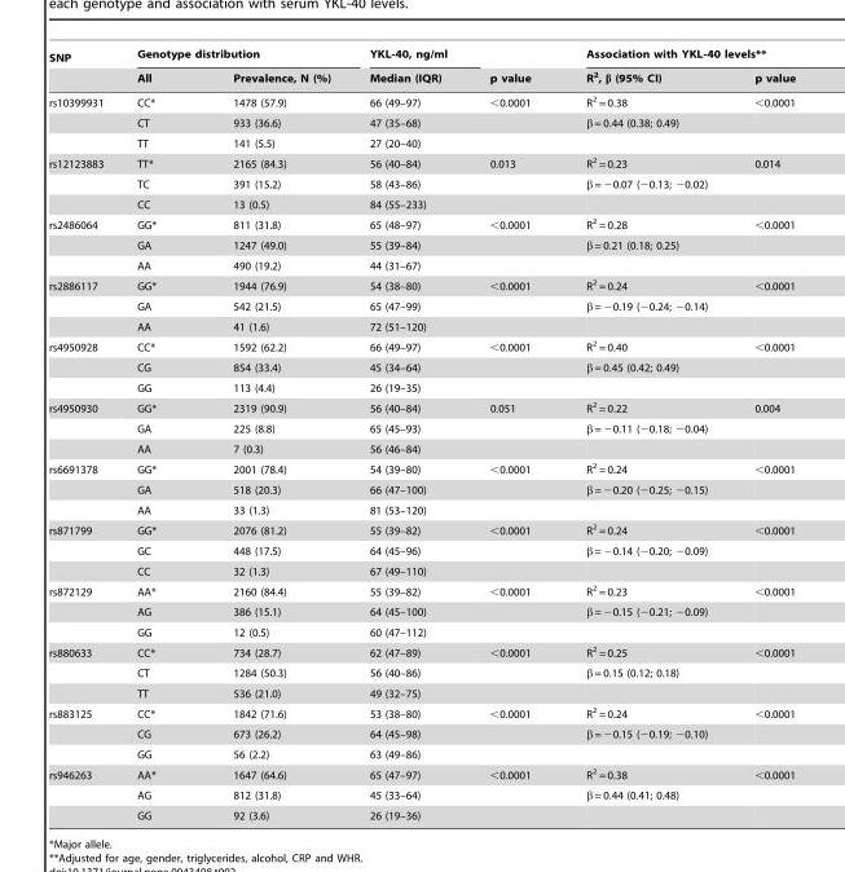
<table><thead><tr><td rowspan="2">SNP</td><td colspan="2">Genotype distribution</td><td rowspan="2">YKL-40, ng/ml Median (IQR)</td><td rowspan="2">p value</td><td colspan="2">Association with YKL-40 levels**</td></tr><tr><td>All</td><td>Prevalence, N (%)</td><td>R<sup>2</sup>, β (95% CI)</td><td>p value</td></tr></thead><tbody><tr><td rowspan="3">rs10399931</td><td>CC*</td><td>1478 (57.9)</td><td>66 (49–97)</td><td>&lt;0.0001</td><td>R<sup>2</sup> = 0.38</td><td>&lt;0.0001</td></tr><tr><td>CT</td><td>933 (36.6)</td><td>47 (35–68)</td><td></td><td>β = 0.44 (0.38; 0.49)</td><td></td></tr><tr><td>TT</td><td>141 (5.5)</td><td>27 (20–40)</td><td></td><td></td><td></td></tr><tr><td rowspan="3">rs12123883</td><td>TT*</td><td>2165 (84.3)</td><td>56 (40–84)</td><td>0.013</td><td>R<sup>2</sup> = 0.23</td><td>0.014</td></tr><tr><td>TC</td><td>391 (15.2)</td><td>58 (43–86)</td><td></td><td>β = −0.07 (−0.13; −0.02)</td><td></td></tr><tr><td>CC</td><td>13 (0.5)</td><td>84 (55–233)</td><td></td><td></td><td></td></tr><tr><td rowspan="3">rs2486064</td><td>GG*</td><td>811 (31.8)</td><td>65 (48–97)</td><td>&lt;0.0001</td><td>R<sup>2</sup> = 0.28</td><td>&lt;0.0001</td></tr><tr><td>GA</td><td>1247 (49.0)</td><td>55 (39–84)</td><td></td><td>β = 0.21 (0.18; 0.25)</td><td></td></tr><tr><td>AA</td><td>490 (19.2)</td><td>44 (31–67)</td><td></td><td></td><td></td></tr><tr><td rowspan="3">rs2886117</td><td>GG*</td><td>1944 (76.9)</td><td>54 (38–80)</td><td>&lt;0.0001</td><td>R<sup>2</sup> = 0.24</td><td>&lt;0.0001</td></tr><tr><td>GA</td><td>542 (21.5)</td><td>65 (47–99)</td><td></td><td>β = −0.19 (−0.24; −0.14)</td><td></td></tr><tr><td>AA</td><td>41 (1.6)</td><td>72 (51–120)</td><td></td><td></td><td></td></tr><tr><td rowspan="3">rs4950928</td><td>CC*</td><td>1592 (62.2)</td><td>66 (49–97)</td><td>&lt;0.0001</td><td>R<sup>2</sup> = 0.40</td><td>&lt;0.0001</td></tr><tr><td>CG</td><td>854 (33.4)</td><td>45 (34–64)</td><td></td><td>β = 0.45 (0.42; 0.49)</td><td></td></tr><tr><td>GG</td><td>113 (4.4)</td><td>26 (19–35)</td><td></td><td></td><td></td></tr><tr><td rowspan="3">rs4950930</td><td>GG*</td><td>2319 (90.9)</td><td>56 (40–84)</td><td>0.051</td><td>R<sup>2</sup> = 0.22</td><td>0.004</td></tr><tr><td>GA</td><td>225 (8.8)</td><td>65 (45–93)</td><td></td><td>β = −0.11 (−0.18; −0.04)</td><td></td></tr><tr><td>AA</td><td>7 (0.3)</td><td>56 (46–84)</td><td></td><td></td><td></td></tr><tr><td rowspan="3">rs6691378</td><td>GG*</td><td>2001 (78.4)</td><td>54 (39–80)</td><td>&lt;0.0001</td><td>R<sup>2</sup> = 0.24</td><td>&lt;0.0001</td></tr><tr><td>GA</td><td>518 (20.3)</td><td>66 (47–100)</td><td></td><td>β = −0.20 (−0.25; −0.15)</td><td></td></tr><tr><td>AA</td><td>33 (1.3)</td><td>81 (53–120)</td><td></td><td></td><td></td></tr><tr><td rowspan="3">rs871799</td><td>GG*</td><td>2076 (81.2)</td><td>55 (39–82)</td><td>&lt;0.0001</td><td>R<sup>2</sup> = 0.24</td><td>&lt;0.0001</td></tr><tr><td>GC</td><td>448 (17.5)</td><td>64 (45–96)</td><td></td><td>β = −0.14 (−0.20; −0.09)</td><td></td></tr><tr><td>CC</td><td>32 (1.3)</td><td>67 (49–110)</td><td></td><td></td><td></td></tr><tr><td rowspan="3">rs872129</td><td>AA*</td><td>2160 (84.4)</td><td>55 (39–82)</td><td>&lt;0.0001</td><td>R<sup>2</sup> = 0.23</td><td>&lt;0.0001</td></tr><tr><td>AG</td><td>386 (15.1)</td><td>64 (45–100)</td><td></td><td>β = −0.15 (−0.21; −0.09)</td><td></td></tr><tr><td>GG</td><td>12 (0.5)</td><td>60 (47–112)</td><td></td><td></td><td></td></tr><tr><td rowspan="3">rs880633</td><td>CC*</td><td>734 (28.7)</td><td>62 (47–89)</td><td>&lt;0.0001</td><td>R<sup>2</sup> = 0.25</td><td>&lt;0.0001</td></tr><tr><td>CT</td><td>1284 (50.3)</td><td>56 (40–86)</td><td></td><td>β = 0.15 (0.12; 0.18)</td><td></td></tr><tr><td>TT</td><td>536 (21.0)</td><td>49 (32–75)</td><td></td><td></td><td></td></tr><tr><td rowspan="3">rs883125</td><td>CC*</td><td>1842 (71.6)</td><td>53 (38–80)</td><td>&lt;0.0001</td><td>R<sup>2</sup> = 0.24</td><td>&lt;0.0001</td></tr><tr><td>CG</td><td>673 (26.2)</td><td>64 (45–98)</td><td></td><td>β = −0.15 (−0.19; −0.10)</td><td></td></tr><tr><td>GG</td><td>56 (2.2)</td><td>63 (49–86)</td><td></td><td></td><td></td></tr><tr><td rowspan="3">rs946263</td><td>AA*</td><td>1647 (64.6)</td><td>65 (47–97)</td><td>&lt;0.0001</td><td>R<sup>2</sup> = 0.38</td><td>&lt;0.0001</td></tr><tr><td>AG</td><td>812 (31.8)</td><td>45 (33–64)</td><td></td><td>β = 0.44 (0.41; 0.48)</td><td></td></tr><tr><td>GG</td><td>92 (3.6)</td><td>26 (19–36)</td><td></td><td></td><td></td></tr></tbody></table>